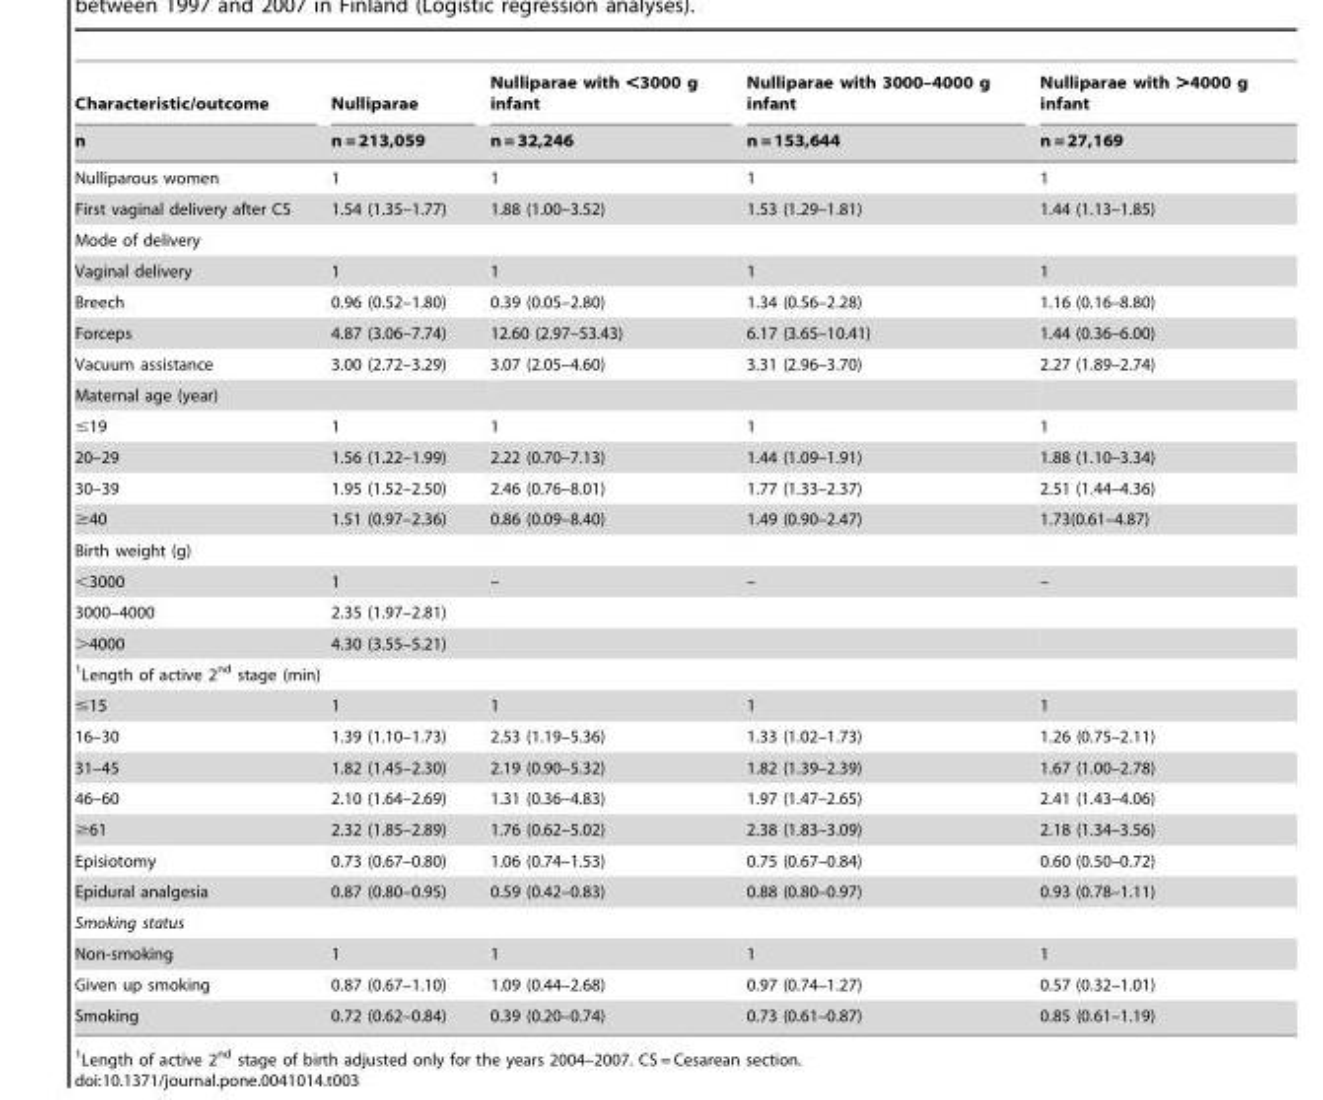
<table><thead><tr><td rowspan="2">Characteristic/outcome n</td><td rowspan="2">Nulliparae n = 213,059</td><td rowspan="2">Nulliparae with &lt;3000 g infant n = 32,246</td><td rowspan="2">Nulliparae with 3000–4000 g infant n = 153,644</td><td rowspan="2">Nulliparae with &gt;4000 g infant n = 27,169</td></tr><tr></tr></thead><tbody><tr><td>Nulliparous women</td><td>1</td><td>1</td><td>1</td><td>1</td></tr><tr><td>First vaginal delivery after CS</td><td>1.54 (1.35–1.77)</td><td>1.88 (1.00–3.52)</td><td>1.53 (1.29–1.81)</td><td>1.44 (1.13–1.85)</td></tr><tr><td colspan="5">Mode of delivery</td></tr><tr><td>Vaginal delivery</td><td>1</td><td>1</td><td>1</td><td>1</td></tr><tr><td>Breech</td><td>0.96 (0.52–1.80)</td><td>0.39 (0.05–2.80)</td><td>1.34 (0.56–2.28)</td><td>1.16 (0.16–8.80)</td></tr><tr><td>Forceps</td><td>4.87 (3.06–7.74)</td><td>12.60 (2.97–53.43)</td><td>6.17 (3.65–10.41)</td><td>1.44 (0.36–6.00)</td></tr><tr><td>Vacuum assistance</td><td>3.00 (2.72–3.29)</td><td>3.07 (2.05–4.60)</td><td>3.31 (2.96–3.70)</td><td>2.27 (1.89–2.74)</td></tr><tr><td colspan="5">Maternal age (year)</td></tr><tr><td>≤19</td><td>1</td><td>1</td><td>1</td><td>1</td></tr><tr><td>20–29</td><td>1.56 (1.22–1.99)</td><td>2.22 (0.70–7.13)</td><td>1.44 (1.09–1.91)</td><td>1.88 (1.10–3.34)</td></tr><tr><td>30–39</td><td>1.95 (1.52–2.50)</td><td>2.46 (0.76–8.01)</td><td>1.77 (1.33–2.37)</td><td>2.51 (1.44–4.36)</td></tr><tr><td>≥40</td><td>1.51 (0.97–2.36)</td><td>0.86 (0.09–8.40)</td><td>1.49 (0.90–2.47)</td><td>1.73(0.61–4.87)</td></tr><tr><td colspan="5">Birth weight (g)</td></tr><tr><td>&lt;3000</td><td>1</td><td>–</td><td>–</td><td>–</td></tr><tr><td>3000–4000</td><td>2.35 (1.97–2.81)</td><td></td><td></td><td></td></tr><tr><td>&gt;4000</td><td>4.30 (3.55–5.21)</td><td></td><td></td><td></td></tr><tr><td colspan="5">1Length of active 2<sup>nd</sup> stage (min)</td></tr><tr><td>≤15</td><td>1</td><td>1</td><td>1</td><td>1</td></tr><tr><td>16–30</td><td>1.39 (1.10–1.73)</td><td>2.53 (1.19–5.36)</td><td>1.33 (1.02–1.73)</td><td>1.26 (0.75–2.11)</td></tr><tr><td>31–45</td><td>1.82 (1.45–2.30)</td><td>2.19 (0.90–5.32)</td><td>1.82 (1.39–2.39)</td><td>1.67 (1.00–2.78)</td></tr><tr><td>46–60</td><td>2.10 (1.64–2.69)</td><td>1.31 (0.36–4.83)</td><td>1.97 (1.47–2.65)</td><td>2.41 (1.43–4.06)</td></tr><tr><td>≥61</td><td>2.32 (1.85–2.89)</td><td>1.76 (0.62–5.02)</td><td>2.38 (1.83–3.09)</td><td>2.18 (1.34–3.56)</td></tr><tr><td>Episiotomy</td><td>0.73 (0.67–0.80)</td><td>1.06 (0.74–1.53)</td><td>0.75 (0.67–0.84)</td><td>0.60 (0.50–0.72)</td></tr><tr><td>Epidural analgesia</td><td>0.87 (0.80–0.95)</td><td>0.59 (0.42–0.83)</td><td>0.88 (0.80–0.97)</td><td>0.93 (0.78–1.11)</td></tr><tr><td colspan="5">Smoking status</td></tr><tr><td>Non-smoking</td><td>1</td><td>1</td><td>1</td><td>1</td></tr><tr><td>Given up smoking</td><td>0.87 (0.67–1.10)</td><td>1.09 (0.44–2.68)</td><td>0.97 (0.74–1.27)</td><td>0.57 (0.32–1.01)</td></tr><tr><td>Smoking</td><td>0.72 (0.62–0.84)</td><td>0.39 (0.20–0.74)</td><td>0.73 (0.61–0.87)</td><td>0.85 (0.61–1.19)</td></tr></tbody></table>